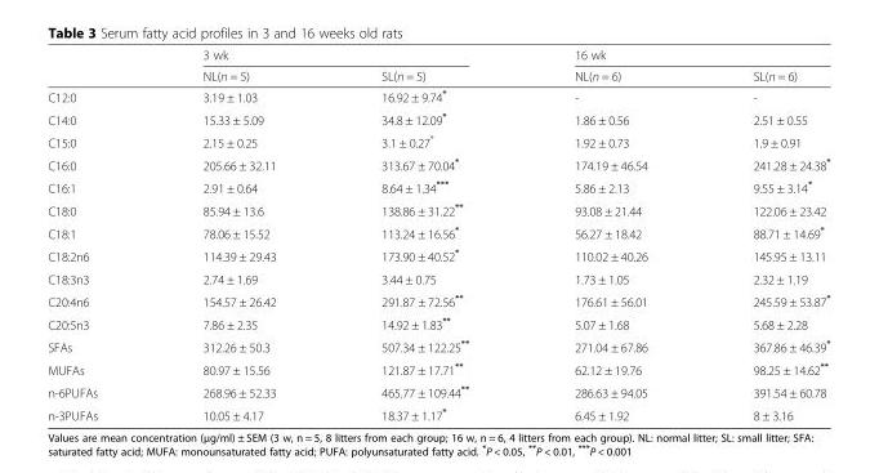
<table><thead><tr><td rowspan="2"></td><td colspan="2">3 wk</td><td colspan="2">16 wk</td></tr><tr><td>NL(n = 5)</td><td>SL(n = 5)</td><td>NL(n = 6)</td><td>SL(n = 6)</td></tr></thead><tbody><tr><td>C12:0</td><td>3.19 ± 1.03</td><td>16.92 ± 9.74*</td><td>-</td><td>-</td></tr><tr><td>C14:0</td><td>15.33 ± 5.09</td><td>34.8 ± 12.09*</td><td>1.86 ± 0.56</td><td>2.51 ± 0.55</td></tr><tr><td>C15:0</td><td>2.15 ± 0.25</td><td>3.1 ± 0.27*</td><td>1.92 ± 0.73</td><td>1.9 ± 0.91</td></tr><tr><td>C16:0</td><td>205.66 ± 32.11</td><td>313.67 ± 70.04*</td><td>174.19 ± 46.54</td><td>241.28 ± 24.38*</td></tr><tr><td>C16:1</td><td>2.91 ± 0.64</td><td>8.64 ± 1.34***</td><td>5.86 ± 2.13</td><td>9.55 ± 3.14*</td></tr><tr><td>C18:0</td><td>85.94 ± 13.6</td><td>138.86 ± 31.22**</td><td>93.08 ± 21.44</td><td>122.06 ± 23.42</td></tr><tr><td>C18:1</td><td>78.06 ± 15.52</td><td>113.24 ± 16.56*</td><td>56.27 ± 18.42</td><td>88.71 ± 14.69*</td></tr><tr><td>C18:2n6</td><td>114.39 ± 29.43</td><td>173.90 ± 40.52*</td><td>110.02 ± 40.26</td><td>145.95 ± 13.11</td></tr><tr><td>C18:3n3</td><td>2.74 ± 1.69</td><td>3.44 ± 0.75</td><td>1.73 ± 1.05</td><td>2.32 ± 1.19</td></tr><tr><td>C20:4n6</td><td>154.57 ± 26.42</td><td>291.87 ± 72.56**</td><td>176.61 ± 56.01</td><td>245.59 ± 53.87*</td></tr><tr><td>C20:5n3</td><td>7.86 ± 2.35</td><td>14.92 ± 1.83**</td><td>5.07 ± 1.68</td><td>5.68 ± 2.28</td></tr><tr><td>SFAs</td><td>312.26 ± 50.3</td><td>507.34 ± 122.25**</td><td>271.04 ± 67.86</td><td>367.86 ± 46.39*</td></tr><tr><td>MUFAs</td><td>80.97 ± 15.56</td><td>121.87 ± 17.71**</td><td>62.12 ± 19.76</td><td>98.25 ± 14.62**</td></tr><tr><td>n-6PUFAs</td><td>268.96 ± 52.33</td><td>465.77 ± 109.44**</td><td>286.63 ± 94.05</td><td>391.54 ± 60.78</td></tr><tr><td>n-3PUFAs</td><td>10.05 ± 4.17</td><td>18.37 ± 1.17*</td><td>6.45 ± 1.92</td><td>8 ± 3.16</td></tr></tbody></table>